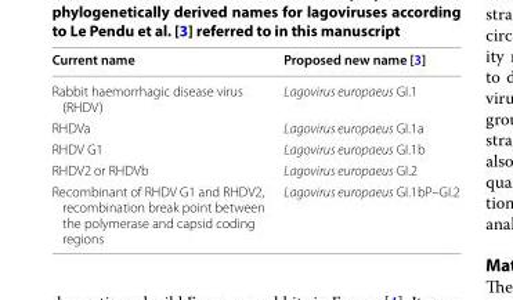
<table><thead><tr><td>Current name</td><td>Proposed new name [3]</td></tr></thead><tbody><tr><td>Rabbit haemorrhagic disease virus (RHDV)</td><td>Lagovirus europaeus GI.1</td></tr><tr><td>RHDVa</td><td>Lagovirus europaeus GI.1a</td></tr><tr><td>RHDV G1</td><td>Lagovirus europaeus GI.1b</td></tr><tr><td>RHDV2 or RHDVb</td><td>Lagovirus europaeus GI.2</td></tr><tr><td>Recombinant of RHDV G1 and RHDV2, recombination break point between the polymerase and capsid coding regions</td><td>Lagovirus europaeus GI.1bP–GI.2</td></tr></tbody></table>